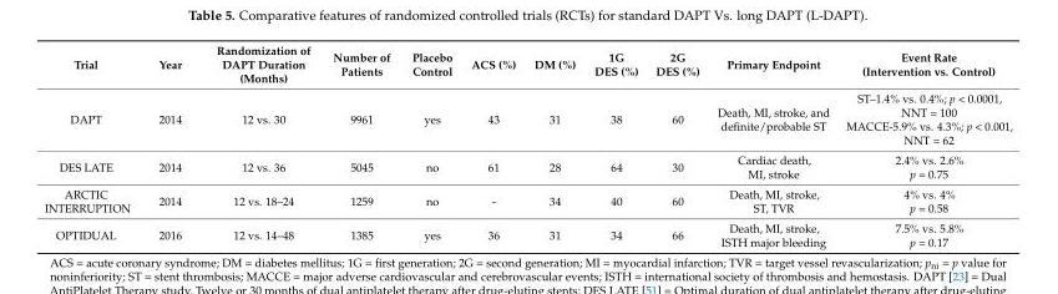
<table><thead><tr><td>Trial</td><td>Year</td><td>Randomization of DAPT Duration (Months)</td><td>Number of Patients</td><td>Placebo Control</td><td>ACS (%)</td><td>DM (%)</td><td>1G DES (%)</td><td>2G DES (%)</td><td>Primary Endpoint</td><td>Event Rate (Intervention vs. Control)</td></tr></thead><tbody><tr><td>DAPT</td><td>2014</td><td>12 vs. 30</td><td>9961</td><td>yes</td><td>43</td><td>31</td><td>38</td><td>60</td><td>Death, MI, stroke, and definite/probable ST</td><td>ST–1.4% vs. 0.4%; p &lt; 0.0001, NNT = 100 MACCE-5.9% vs. 4.3%; p &lt; 0.001, NNT = 62</td></tr><tr><td>DES LATE</td><td>2014</td><td>12 vs. 36</td><td>5045</td><td>no</td><td>61</td><td>28</td><td>64</td><td>30</td><td>Cardiac death, MI, stroke</td><td>2.4% vs. 2.6% p = 0.75</td></tr><tr><td>ARCTIC INTERRUPTION</td><td>2014</td><td>12 vs. 18–24</td><td>1259</td><td>no</td><td>-</td><td>34</td><td>40</td><td>60</td><td>Death, MI, stroke, ST, TVR</td><td>4% vs. 4% p = 0.58</td></tr><tr><td>OPTIDUAL</td><td>2016</td><td>12 vs. 14–48</td><td>1385</td><td>yes</td><td>36</td><td>31</td><td>34</td><td>66</td><td>Death, MI, stroke, ISTH major bleeding</td><td>7.5% vs. 5.8% p = 0.17</td></tr></tbody></table>